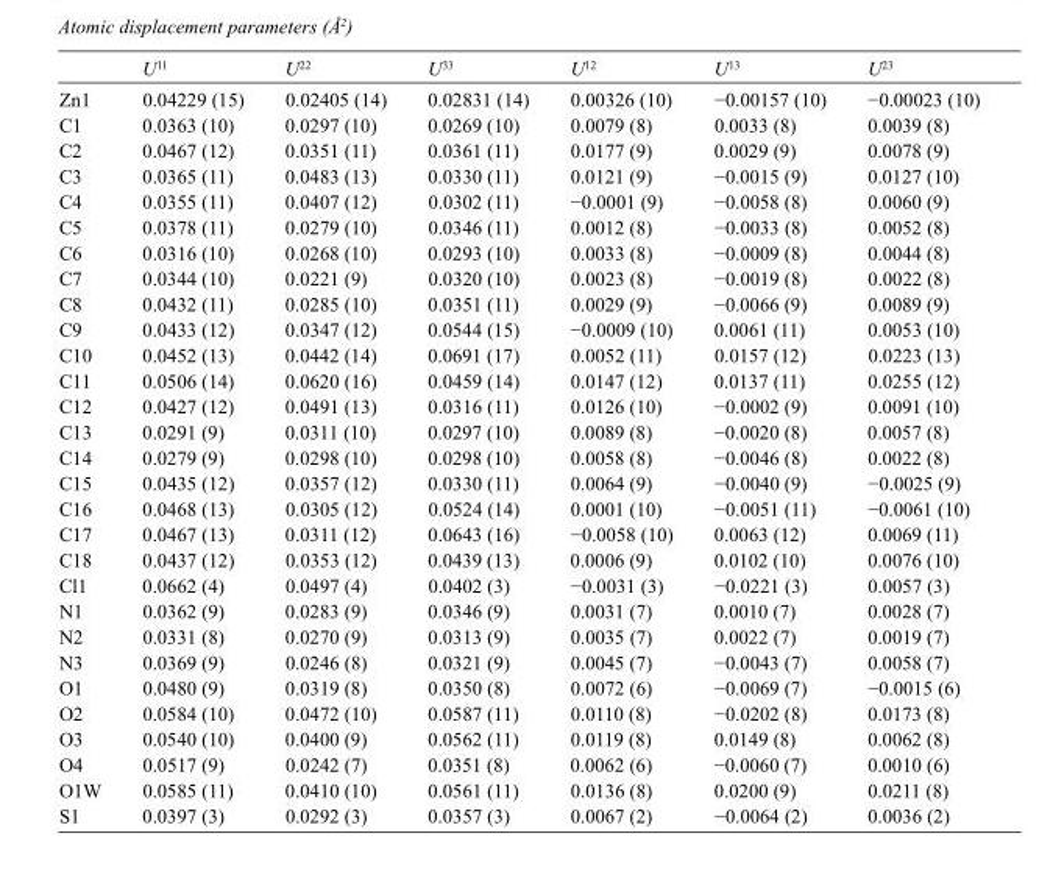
<table><thead><tr><td></td><td>U<sup>11</sup></td><td>U<sup>22</sup></td><td>U<sup>33</sup></td><td>U<sup>12</sup></td><td>U<sup>13</sup></td><td>U<sup>23</sup></td></tr></thead><tbody><tr><td>Zn1</td><td>0.04229 (15)</td><td>0.02405 (14)</td><td>0.02831 (14)</td><td>0.00326 (10)</td><td>−0.00157 (10)</td><td>−0.00023 (10)</td></tr><tr><td>C1</td><td>0.0363 (10)</td><td>0.0297 (10)</td><td>0.0269 (10)</td><td>0.0079 (8)</td><td>0.0033 (8)</td><td>0.0039 (8)</td></tr><tr><td>C2</td><td>0.0467 (12)</td><td>0.0351 (11)</td><td>0.0361 (11)</td><td>0.0177 (9)</td><td>0.0029 (9)</td><td>0.0078 (9)</td></tr><tr><td>C3</td><td>0.0365 (11)</td><td>0.0483 (13)</td><td>0.0330 (11)</td><td>0.0121 (9)</td><td>−0.0015 (9)</td><td>0.0127 (10)</td></tr><tr><td>C4</td><td>0.0355 (11)</td><td>0.0407 (12)</td><td>0.0302 (11)</td><td>−0.0001 (9)</td><td>−0.0058 (8)</td><td>0.0060 (9)</td></tr><tr><td>C5</td><td>0.0378 (11)</td><td>0.0279 (10)</td><td>0.0346 (11)</td><td>0.0012 (8)</td><td>−0.0033 (8)</td><td>0.0052 (8)</td></tr><tr><td>C6</td><td>0.0316 (10)</td><td>0.0268 (10)</td><td>0.0293 (10)</td><td>0.0033 (8)</td><td>−0.0009 (8)</td><td>0.0044 (8)</td></tr><tr><td>C7</td><td>0.0344 (10)</td><td>0.0221 (9)</td><td>0.0320 (10)</td><td>0.0023 (8)</td><td>−0.0019 (8)</td><td>0.0022 (8)</td></tr><tr><td>C8</td><td>0.0432 (11)</td><td>0.0285 (10)</td><td>0.0351 (11)</td><td>0.0029 (9)</td><td>−0.0066 (9)</td><td>0.0089 (9)</td></tr><tr><td>C9</td><td>0.0433 (12)</td><td>0.0347 (12)</td><td>0.0544 (15)</td><td>−0.0009 (10)</td><td>0.0061 (11)</td><td>0.0053 (10)</td></tr><tr><td>C10</td><td>0.0452 (13)</td><td>0.0442 (14)</td><td>0.0691 (17)</td><td>0.0052 (11)</td><td>0.0157 (12)</td><td>0.0223 (13)</td></tr><tr><td>C11</td><td>0.0506 (14)</td><td>0.0620 (16)</td><td>0.0459 (14)</td><td>0.0147 (12)</td><td>0.0137 (11)</td><td>0.0255 (12)</td></tr><tr><td>C12</td><td>0.0427 (12)</td><td>0.0491 (13)</td><td>0.0316 (11)</td><td>0.0126 (10)</td><td>−0.0002 (9)</td><td>0.0091 (10)</td></tr><tr><td>C13</td><td>0.0291 (9)</td><td>0.0311 (10)</td><td>0.0297 (10)</td><td>0.0089 (8)</td><td>−0.0020 (8)</td><td>0.0057 (8)</td></tr><tr><td>C14</td><td>0.0279 (9)</td><td>0.0298 (10)</td><td>0.0298 (10)</td><td>0.0058 (8)</td><td>−0.0046 (8)</td><td>0.0022 (8)</td></tr><tr><td>C15</td><td>0.0435 (12)</td><td>0.0357 (12)</td><td>0.0330 (11)</td><td>0.0064 (9)</td><td>−0.0040 (9)</td><td>−0.0025 (9)</td></tr><tr><td>C16</td><td>0.0468 (13)</td><td>0.0305 (12)</td><td>0.0524 (14)</td><td>0.0001 (10)</td><td>−0.0051 (11)</td><td>−0.0061 (10)</td></tr><tr><td>C17</td><td>0.0467 (13)</td><td>0.0311 (12)</td><td>0.0643 (16)</td><td>−0.0058 (10)</td><td>0.0063 (12)</td><td>0.0069 (11)</td></tr><tr><td>C18</td><td>0.0437 (12)</td><td>0.0353 (12)</td><td>0.0439 (13)</td><td>0.0006 (9)</td><td>0.0102 (10)</td><td>0.0076 (10)</td></tr><tr><td>Cl1</td><td>0.0662 (4)</td><td>0.0497 (4)</td><td>0.0402 (3)</td><td>−0.0031 (3)</td><td>−0.0221 (3)</td><td>0.0057 (3)</td></tr><tr><td>N1</td><td>0.0362 (9)</td><td>0.0283 (9)</td><td>0.0346 (9)</td><td>0.0031 (7)</td><td>0.0010 (7)</td><td>0.0028 (7)</td></tr><tr><td>N2</td><td>0.0331 (8)</td><td>0.0270 (9)</td><td>0.0313 (9)</td><td>0.0035 (7)</td><td>0.0022 (7)</td><td>0.0019 (7)</td></tr><tr><td>N3</td><td>0.0369 (9)</td><td>0.0246 (8)</td><td>0.0321 (9)</td><td>0.0045 (7)</td><td>−0.0043 (7)</td><td>0.0058 (7)</td></tr><tr><td>O1</td><td>0.0480 (9)</td><td>0.0319 (8)</td><td>0.0350 (8)</td><td>0.0072 (6)</td><td>−0.0069 (7)</td><td>−0.0015 (6)</td></tr><tr><td>O2</td><td>0.0584 (10)</td><td>0.0472 (10)</td><td>0.0587 (11)</td><td>0.0110 (8)</td><td>−0.0202 (8)</td><td>0.0173 (8)</td></tr><tr><td>O3</td><td>0.0540 (10)</td><td>0.0400 (9)</td><td>0.0562 (11)</td><td>0.0119 (8)</td><td>0.0149 (8)</td><td>0.0062 (8)</td></tr><tr><td>O4</td><td>0.0517 (9)</td><td>0.0242 (7)</td><td>0.0351 (8)</td><td>0.0062 (6)</td><td>−0.0060 (7)</td><td>0.0010 (6)</td></tr><tr><td>O1W</td><td>0.0585 (11)</td><td>0.0410 (10)</td><td>0.0561 (11)</td><td>0.0136 (8)</td><td>0.0200 (9)</td><td>0.0211 (8)</td></tr><tr><td>S1</td><td>0.0397 (3)</td><td>0.0292 (3)</td><td>0.0357 (3)</td><td>0.0067 (2)</td><td>−0.0064 (2)</td><td>0.0036 (2)</td></tr></tbody></table>